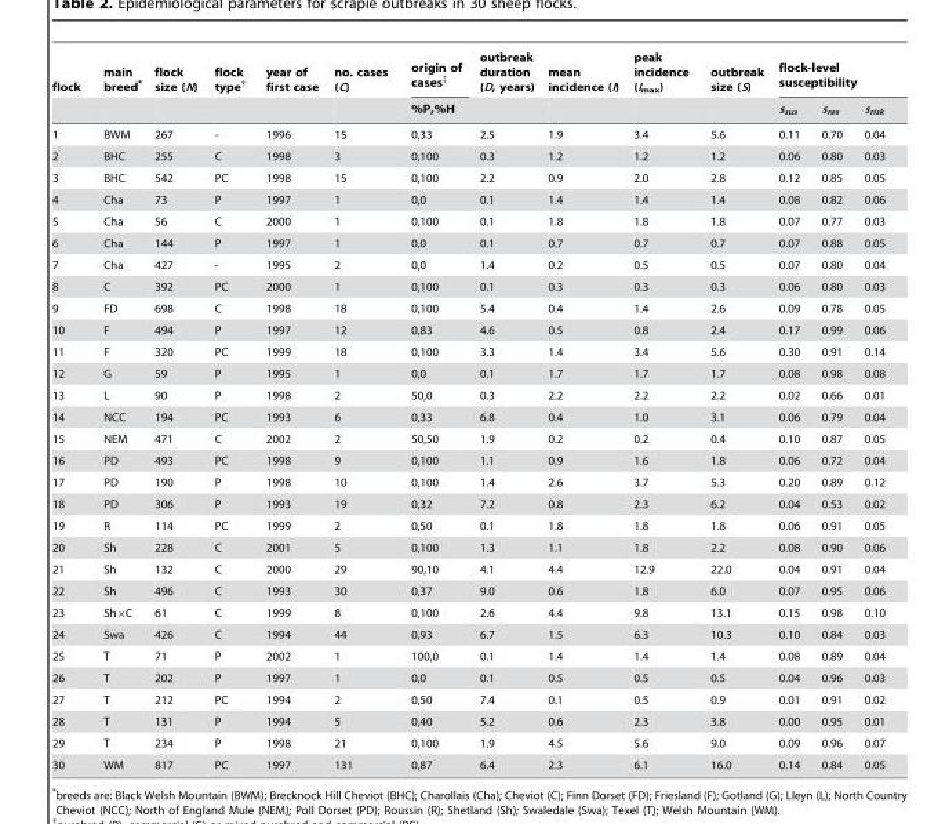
<table><thead><tr><td rowspan="2">flock</td><td rowspan="2">main breed*</td><td rowspan="2">flock size (N)</td><td rowspan="2">flock type†</td><td rowspan="2">year of first case</td><td rowspan="2">no. cases (C)</td><td rowspan="2">origin of cases‡ %P,%H</td><td rowspan="2">outbreak duration (D, years)</td><td rowspan="2">mean incidence (I)</td><td rowspan="2">peak incidence (I<sub>max</sub>)</td><td rowspan="2">outbreak size (S)</td><td colspan="3">flock-level susceptibility</td></tr><tr><td>s<sub>sus</sub></td><td>s<sub>res</sub></td><td>s<sub>risk</sub></td></tr></thead><tbody><tr><td>1</td><td>BWM</td><td>267</td><td>-</td><td>1996</td><td>15</td><td>0,33</td><td>2.5</td><td>1.9</td><td>3.4</td><td>5.6</td><td>0.11</td><td>0.70</td><td>0.04</td></tr><tr><td>2</td><td>BHC</td><td>255</td><td>C</td><td>1998</td><td>3</td><td>0,100</td><td>0.3</td><td>1.2</td><td>1.2</td><td>1.2</td><td>0.06</td><td>0.80</td><td>0.03</td></tr><tr><td>3</td><td>BHC</td><td>542</td><td>PC</td><td>1998</td><td>15</td><td>0,100</td><td>2.2</td><td>0.9</td><td>2.0</td><td>2.8</td><td>0.12</td><td>0.85</td><td>0.05</td></tr><tr><td>4</td><td>Cha</td><td>73</td><td>P</td><td>1997</td><td>1</td><td>0,0</td><td>0.1</td><td>1.4</td><td>1.4</td><td>1.4</td><td>0.08</td><td>0.82</td><td>0.06</td></tr><tr><td>5</td><td>Cha</td><td>56</td><td>C</td><td>2000</td><td>1</td><td>0,100</td><td>0.1</td><td>1.8</td><td>1.8</td><td>1.8</td><td>0.07</td><td>0.77</td><td>0.03</td></tr><tr><td>6</td><td>Cha</td><td>144</td><td>P</td><td>1997</td><td>1</td><td>0,0</td><td>0.1</td><td>0.7</td><td>0.7</td><td>0.7</td><td>0.07</td><td>0.88</td><td>0.05</td></tr><tr><td>7</td><td>Cha</td><td>427</td><td>-</td><td>1995</td><td>2</td><td>0,0</td><td>1.4</td><td>0.2</td><td>0.5</td><td>0.5</td><td>0.07</td><td>0.80</td><td>0.04</td></tr><tr><td>8</td><td>C</td><td>392</td><td>PC</td><td>2000</td><td>1</td><td>0,100</td><td>0.1</td><td>0.3</td><td>0.3</td><td>0.3</td><td>0.06</td><td>0.80</td><td>0.03</td></tr><tr><td>9</td><td>FD</td><td>698</td><td>C</td><td>1998</td><td>18</td><td>0,100</td><td>5.4</td><td>0.4</td><td>1.4</td><td>2.6</td><td>0.09</td><td>0.78</td><td>0.05</td></tr><tr><td>10</td><td>F</td><td>494</td><td>P</td><td>1997</td><td>12</td><td>0,83</td><td>4.6</td><td>0.5</td><td>0.8</td><td>2.4</td><td>0.17</td><td>0.99</td><td>0.06</td></tr><tr><td>11</td><td>F</td><td>320</td><td>PC</td><td>1999</td><td>18</td><td>0,100</td><td>3.3</td><td>1.4</td><td>3.4</td><td>5.6</td><td>0.30</td><td>0.91</td><td>0.14</td></tr><tr><td>12</td><td>G</td><td>59</td><td>P</td><td>1995</td><td>1</td><td>0,0</td><td>0.1</td><td>1.7</td><td>1.7</td><td>1.7</td><td>0.08</td><td>0.98</td><td>0.08</td></tr><tr><td>13</td><td>L</td><td>90</td><td>P</td><td>1998</td><td>2</td><td>50,0</td><td>0.3</td><td>2.2</td><td>2.2</td><td>2.2</td><td>0.02</td><td>0.66</td><td>0.01</td></tr><tr><td>14</td><td>NCC</td><td>194</td><td>PC</td><td>1993</td><td>6</td><td>0,33</td><td>6.8</td><td>0.4</td><td>1.0</td><td>3.1</td><td>0.06</td><td>0.79</td><td>0.04</td></tr><tr><td>15</td><td>NEM</td><td>471</td><td>C</td><td>2002</td><td>2</td><td>50,50</td><td>1.9</td><td>0.2</td><td>0.2</td><td>0.4</td><td>0.10</td><td>0.87</td><td>0.05</td></tr><tr><td>16</td><td>PD</td><td>493</td><td>PC</td><td>1998</td><td>9</td><td>0,100</td><td>1.1</td><td>0.9</td><td>1.6</td><td>1.8</td><td>0.06</td><td>0.72</td><td>0.04</td></tr><tr><td>17</td><td>PD</td><td>190</td><td>P</td><td>1998</td><td>10</td><td>0,100</td><td>1.4</td><td>2.6</td><td>3.7</td><td>5.3</td><td>0.20</td><td>0.89</td><td>0.12</td></tr><tr><td>18</td><td>PD</td><td>306</td><td>P</td><td>1993</td><td>19</td><td>0,32</td><td>7.2</td><td>0.8</td><td>2.3</td><td>6.2</td><td>0.04</td><td>0.53</td><td>0.02</td></tr><tr><td>19</td><td>R</td><td>114</td><td>PC</td><td>1999</td><td>2</td><td>0,50</td><td>0.1</td><td>1.8</td><td>1.8</td><td>1.8</td><td>0.06</td><td>0.91</td><td>0.05</td></tr><tr><td>20</td><td>Sh</td><td>228</td><td>C</td><td>2001</td><td>5</td><td>0,100</td><td>1.3</td><td>1.1</td><td>1.8</td><td>2.2</td><td>0.08</td><td>0.90</td><td>0.06</td></tr><tr><td>21</td><td>Sh</td><td>132</td><td>C</td><td>2000</td><td>29</td><td>90,10</td><td>4.1</td><td>4.4</td><td>12.9</td><td>22.0</td><td>0.04</td><td>0.91</td><td>0.04</td></tr><tr><td>22</td><td>Sh</td><td>496</td><td>C</td><td>1993</td><td>30</td><td>0,37</td><td>9.0</td><td>0.6</td><td>1.8</td><td>6.0</td><td>0.07</td><td>0.95</td><td>0.06</td></tr><tr><td>23</td><td>Sh×C</td><td>61</td><td>C</td><td>1999</td><td>8</td><td>0,100</td><td>2.6</td><td>4.4</td><td>9.8</td><td>13.1</td><td>0.15</td><td>0.98</td><td>0.10</td></tr><tr><td>24</td><td>Swa</td><td>426</td><td>C</td><td>1994</td><td>44</td><td>0,93</td><td>6.7</td><td>1.5</td><td>6.3</td><td>10.3</td><td>0.10</td><td>0.84</td><td>0.03</td></tr><tr><td>25</td><td>T</td><td>71</td><td>P</td><td>2002</td><td>1</td><td>100,0</td><td>0.1</td><td>1.4</td><td>1.4</td><td>1.4</td><td>0.08</td><td>0.89</td><td>0.04</td></tr><tr><td>26</td><td>T</td><td>202</td><td>P</td><td>1997</td><td>1</td><td>0,0</td><td>0.1</td><td>0.5</td><td>0.5</td><td>0.5</td><td>0.04</td><td>0.96</td><td>0.03</td></tr><tr><td>27</td><td>T</td><td>212</td><td>PC</td><td>1994</td><td>2</td><td>0,50</td><td>7.4</td><td>0.1</td><td>0.5</td><td>0.9</td><td>0.01</td><td>0.91</td><td>0.02</td></tr><tr><td>28</td><td>T</td><td>131</td><td>P</td><td>1994</td><td>5</td><td>0,40</td><td>5.2</td><td>0.6</td><td>2.3</td><td>3.8</td><td>0.00</td><td>0.95</td><td>0.01</td></tr><tr><td>29</td><td>T</td><td>234</td><td>P</td><td>1998</td><td>21</td><td>0,100</td><td>1.9</td><td>4.5</td><td>5.6</td><td>9.0</td><td>0.09</td><td>0.96</td><td>0.07</td></tr><tr><td>30</td><td>WM</td><td>817</td><td>PC</td><td>1997</td><td>131</td><td>0,87</td><td>6.4</td><td>2.3</td><td>6.1</td><td>16.0</td><td>0.14</td><td>0.84</td><td>0.05</td></tr></tbody></table>